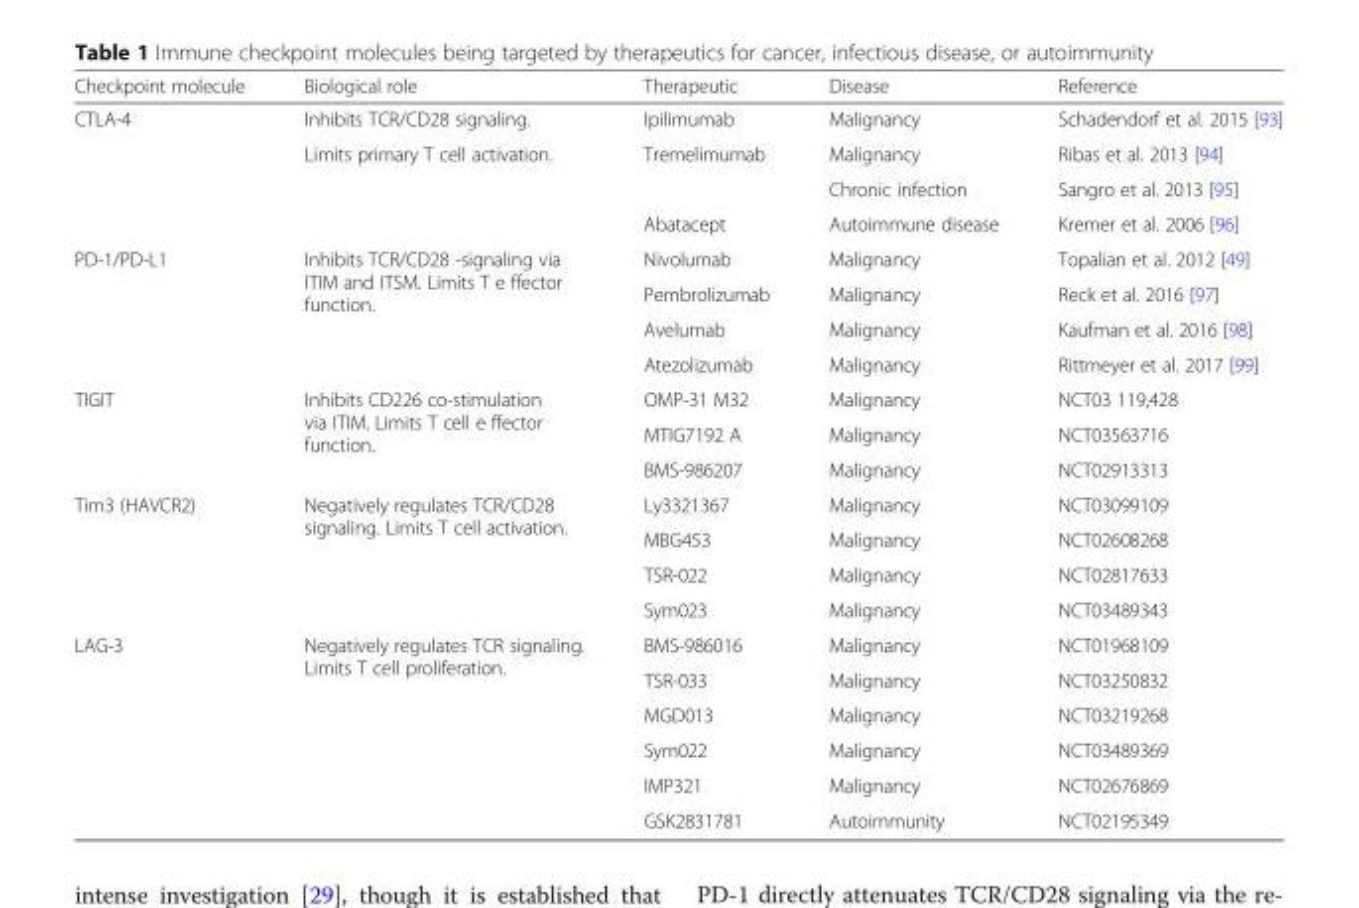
<table><thead><tr><td>Checkpoint molecule</td><td>Biological role</td><td>Therapeutic</td><td>Disease</td><td>Reference</td></tr></thead><tbody><tr><td rowspan="4">CTLA-4</td><td>Inhibits TCR/CD28 signaling.</td><td>Ipilimumab</td><td>Malignancy</td><td>Schadendorf et al. 2015 [93]</td></tr><tr><td>Limits primary T cell activation.</td><td>Tremelimumab</td><td>Malignancy</td><td>Ribas et al. 2013 [94]</td></tr><tr><td></td><td></td><td>Chronic infection</td><td>Sangro et al. 2013 [95]</td></tr><tr><td></td><td>Abatacept</td><td>Autoimmune disease</td><td>Kremer et al. 2006 [96]</td></tr><tr><td rowspan="4">PD-1/PD-L1</td><td rowspan="4">Inhibits TCR/CD28 -signaling via ITIM and ITSM. Limits T e ffector function.</td><td>Nivolumab</td><td>Malignancy</td><td>Topalian et al. 2012 [49]</td></tr><tr><td>Pembrolizumab</td><td>Malignancy</td><td>Reck et al. 2016 [97]</td></tr><tr><td>Avelumab</td><td>Malignancy</td><td>Kaufman et al. 2016 [98]</td></tr><tr><td>Atezolizumab</td><td>Malignancy</td><td>Rittmeyer et al. 2017 [99]</td></tr><tr><td rowspan="3">TIGIT</td><td rowspan="3">Inhibits CD226 co-stimulation via ITIM. Limits T cell e ffector function.</td><td>OMP-31 M32</td><td>Malignancy</td><td>NCT03 119,428</td></tr><tr><td>MTIG7192 A</td><td>Malignancy</td><td>NCT03563716</td></tr><tr><td>BMS-986207</td><td>Malignancy</td><td>NCT02913313</td></tr><tr><td rowspan="4">Tim3 (HAVCR2)</td><td rowspan="4">Negatively regulates TCR/CD28 signaling. Limits T cell activation.</td><td>Ly3321367</td><td>Malignancy</td><td>NCT03099109</td></tr><tr><td>MBG453</td><td>Malignancy</td><td>NCT02608268</td></tr><tr><td>TSR-022</td><td>Malignancy</td><td>NCT02817633</td></tr><tr><td>Sym023</td><td>Malignancy</td><td>NCT03489343</td></tr><tr><td rowspan="6">LAG-3</td><td rowspan="6">Negatively regulates TCR signaling. Limits T cell proliferation.</td><td>BMS-986016</td><td>Malignancy</td><td>NCT01968109</td></tr><tr><td>TSR-033</td><td>Malignancy</td><td>NCT03250832</td></tr><tr><td>MGD013</td><td>Malignancy</td><td>NCT03219268</td></tr><tr><td>Sym022</td><td>Malignancy</td><td>NCT03489369</td></tr><tr><td>IMP321</td><td>Malignancy</td><td>NCT02676869</td></tr><tr><td>GSK2831781</td><td>Autoimmunity</td><td>NCT02195349</td></tr></tbody></table>